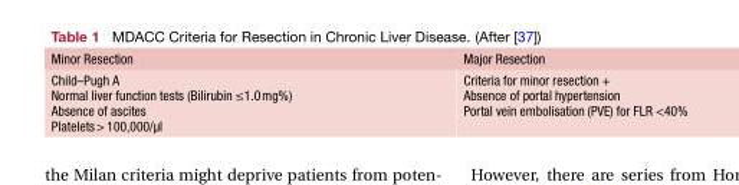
<table><thead><tr><td>Minor Resection</td><td>Major Resection</td></tr></thead><tbody><tr><td>Child–Pugh A Normal liver function tests (Bilirubin ≤1.0mg%) Absence of ascites Platelets&gt; 100,000/µl</td><td>Criteria for minor resection + Absence of portal hypertension Portal vein embolisation (PVE) for FLR &lt;40%</td></tr></tbody></table>